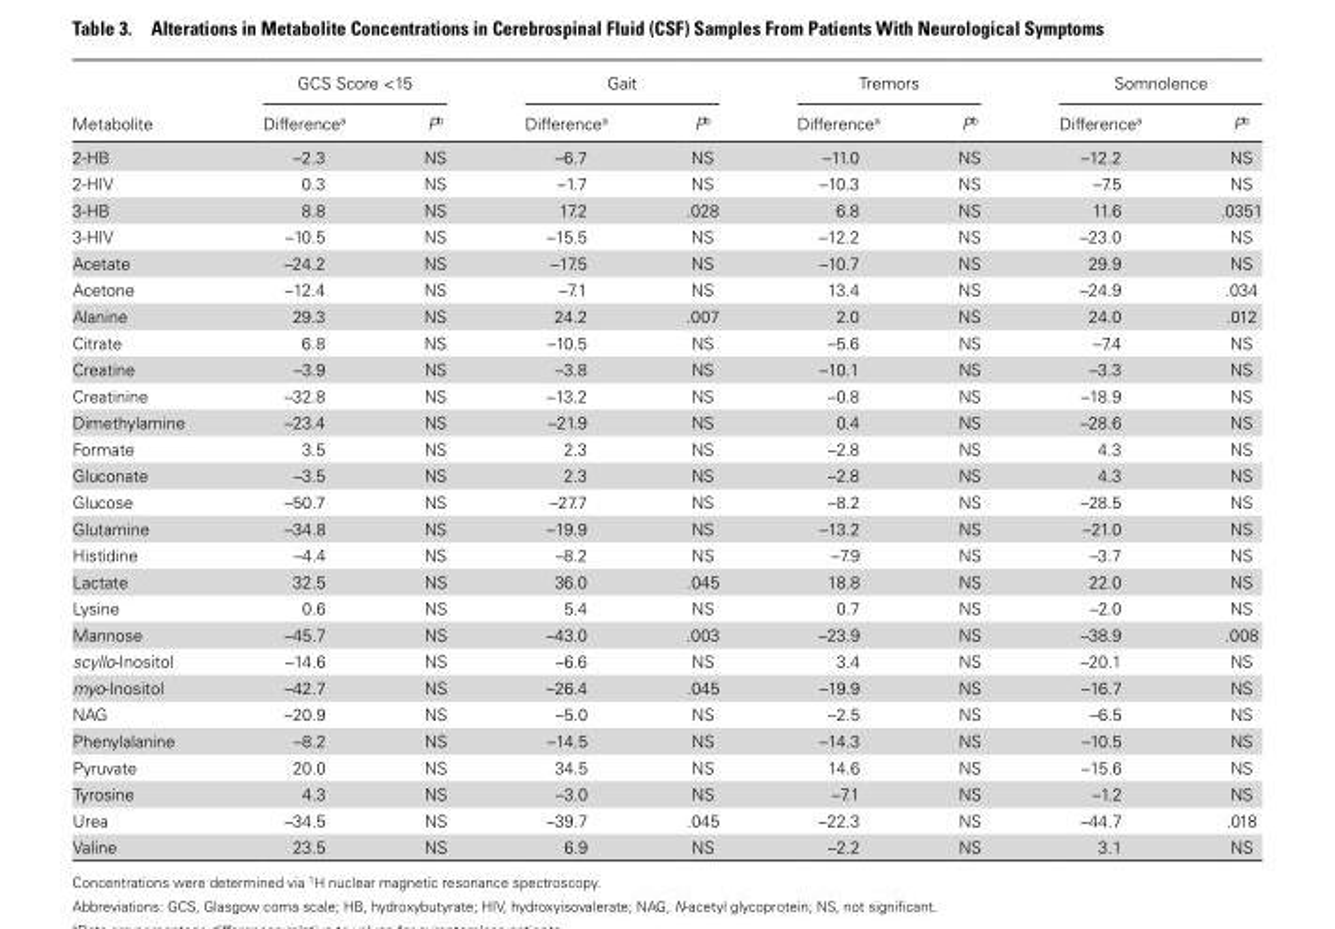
<table><thead><tr><td rowspan="2">Metabolite</td><td colspan="2">GCS Score &lt;15</td><td colspan="2">Gait</td><td colspan="2">Tremors</td><td colspan="2">Somnolence</td></tr><tr><td>Difference<sup>a</sup></td><td>P<sup>b</sup></td><td>Difference<sup>a</sup></td><td>P<sup>b</sup></td><td>Difference<sup>a</sup></td><td>P<sup>b</sup></td><td>Difference<sup>a</sup></td><td>P<sup>b</sup></td></tr></thead><tbody><tr><td>2-HB</td><td>–2.3</td><td>NS</td><td>–6.7</td><td>NS</td><td>–11.0</td><td>NS</td><td>–12.2</td><td>NS</td></tr><tr><td>2-HIV</td><td>0.3</td><td>NS</td><td>–1.7</td><td>NS</td><td>–10.3</td><td>NS</td><td>–7.5</td><td>NS</td></tr><tr><td>3-HB</td><td>8.8</td><td>NS</td><td>17.2</td><td>.028</td><td>6.8</td><td>NS</td><td>11.6</td><td>.0351</td></tr><tr><td>3-HIV</td><td>–10.5</td><td>NS</td><td>–15.5</td><td>NS</td><td>–12.2</td><td>NS</td><td>–23.0</td><td>NS</td></tr><tr><td>Acetate</td><td>–24.2</td><td>NS</td><td>–17.5</td><td>NS</td><td>–10.7</td><td>NS</td><td>29.9</td><td>NS</td></tr><tr><td>Acetone</td><td>–12.4</td><td>NS</td><td>–7.1</td><td>NS</td><td>13.4</td><td>NS</td><td>–24.9</td><td>.034</td></tr><tr><td>Alanine</td><td>29.3</td><td>NS</td><td>24.2</td><td>.007</td><td>2.0</td><td>NS</td><td>24.0</td><td>.012</td></tr><tr><td>Citrate</td><td>6.8</td><td>NS</td><td>–10.5</td><td>NS</td><td>–5.6</td><td>NS</td><td>–7.4</td><td>NS</td></tr><tr><td>Creatine</td><td>–3.9</td><td>NS</td><td>–3.8</td><td>NS</td><td>–10.1</td><td>NS</td><td>–3.3</td><td>NS</td></tr><tr><td>Creatinine</td><td>–32.8</td><td>NS</td><td>–13.2</td><td>NS</td><td>–0.8</td><td>NS</td><td>–18.9</td><td>NS</td></tr><tr><td>Dimethylamine</td><td>–23.4</td><td>NS</td><td>–21.9</td><td>NS</td><td>0.4</td><td>NS</td><td>–28.6</td><td>NS</td></tr><tr><td>Formate</td><td>3.5</td><td>NS</td><td>2.3</td><td>NS</td><td>–2.8</td><td>NS</td><td>4.3</td><td>NS</td></tr><tr><td>Gluconate</td><td>–3.5</td><td>NS</td><td>2.3</td><td>NS</td><td>–2.8</td><td>NS</td><td>4.3</td><td>NS</td></tr><tr><td>Glucose</td><td>–50.7</td><td>NS</td><td>–27.7</td><td>NS</td><td>–8.2</td><td>NS</td><td>–28.5</td><td>NS</td></tr><tr><td>Glutamine</td><td>–34.8</td><td>NS</td><td>–19.9</td><td>NS</td><td>–13.2</td><td>NS</td><td>–21.0</td><td>NS</td></tr><tr><td>Histidine</td><td>–4.4</td><td>NS</td><td>–8.2</td><td>NS</td><td>–7.9</td><td>NS</td><td>–3.7</td><td>NS</td></tr><tr><td>Lactate</td><td>32.5</td><td>NS</td><td>36.0</td><td>.045</td><td>18.8</td><td>NS</td><td>22.0</td><td>NS</td></tr><tr><td>Lysine</td><td>0.6</td><td>NS</td><td>5.4</td><td>NS</td><td>0.7</td><td>NS</td><td>–2.0</td><td>NS</td></tr><tr><td>Mannose</td><td>–45.7</td><td>NS</td><td>–43.0</td><td>.003</td><td>–23.9</td><td>NS</td><td>–38.9</td><td>.008</td></tr><tr><td>scyllo-Inositol</td><td>–14.6</td><td>NS</td><td>–6.6</td><td>NS</td><td>3.4</td><td>NS</td><td>–20.1</td><td>NS</td></tr><tr><td>myo-Inositol</td><td>–42.7</td><td>NS</td><td>–26.4</td><td>.045</td><td>–19.9</td><td>NS</td><td>–16.7</td><td>NS</td></tr><tr><td>NAG</td><td>–20.9</td><td>NS</td><td>–5.0</td><td>NS</td><td>–2.5</td><td>NS</td><td>–6.5</td><td>NS</td></tr><tr><td>Phenylalanine</td><td>–8.2</td><td>NS</td><td>–14.5</td><td>NS</td><td>–14.3</td><td>NS</td><td>–10.5</td><td>NS</td></tr><tr><td>Pyruvate</td><td>20.0</td><td>NS</td><td>34.5</td><td>NS</td><td>14.6</td><td>NS</td><td>–15.6</td><td>NS</td></tr><tr><td>Tyrosine</td><td>4.3</td><td>NS</td><td>–3.0</td><td>NS</td><td>–7.1</td><td>NS</td><td>–1.2</td><td>NS</td></tr><tr><td>Urea</td><td>–34.5</td><td>NS</td><td>–39.7</td><td>.045</td><td>–22.3</td><td>NS</td><td>–44.7</td><td>.018</td></tr><tr><td>Valine</td><td>23.5</td><td>NS</td><td>6.9</td><td>NS</td><td>–2.2</td><td>NS</td><td>3.1</td><td>NS</td></tr></tbody></table>